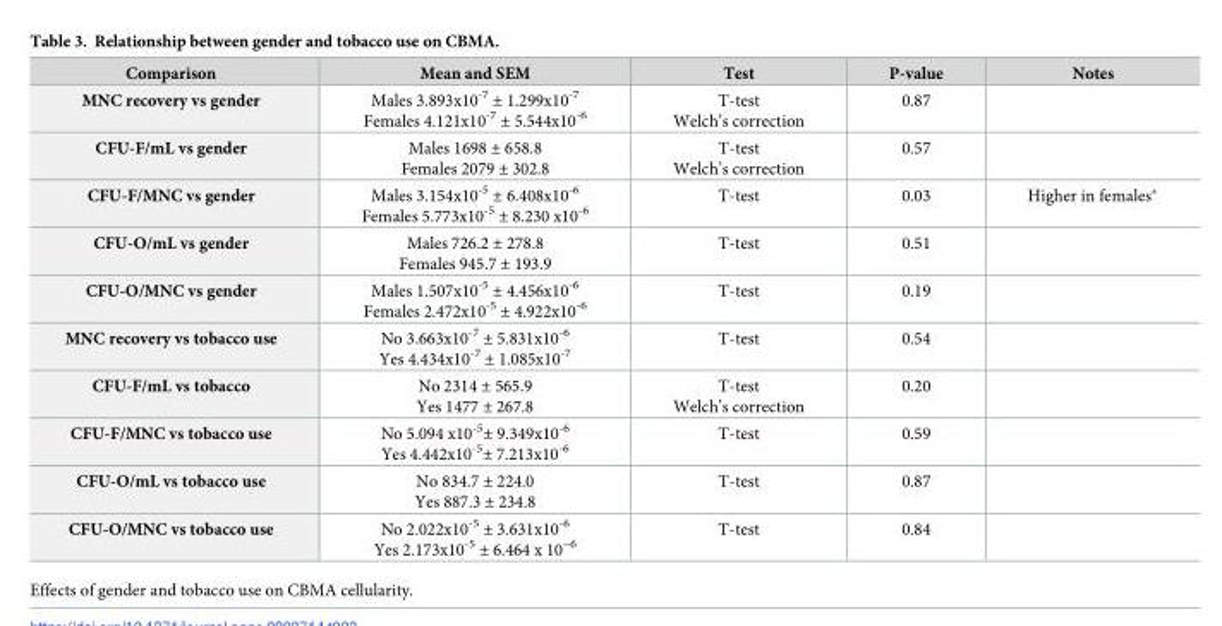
<table><thead><tr><td>Comparison</td><td>Mean and SEM</td><td>Test</td><td>P-value</td><td>Notes</td></tr></thead><tbody><tr><td>MNC recovery vs gender</td><td>Males 3.893x10<sup>-7</sup> ± 1.299x10<sup>-7</sup> Females 4.121x10<sup>-7</sup> ± 5.544x10<sup>-6</sup></td><td>T-test Welch’s correction</td><td>0.87</td><td></td></tr><tr><td>CFU-F/mL vs gender</td><td>Males 1698 ± 658.8 Females 2079 ± 302.8</td><td>T-test Welch’s correction</td><td>0.57</td><td></td></tr><tr><td>CFU-F/MNC vs gender</td><td>Males 3.154x10<sup>-5</sup> ± 6.408x10<sup>-6</sup> Females 5.773x10<sup>-5</sup> ± 8.230 x10<sup>-6</sup></td><td>T-test</td><td>0.03</td><td>Higher in females*</td></tr><tr><td>CFU-O/mL vs gender</td><td>Males 726.2 ± 278.8 Females 945.7 ± 193.9</td><td>T-test</td><td>0.51</td><td></td></tr><tr><td>CFU-O/MNC vs gender</td><td>Males 1.507x10<sup>-5</sup> ± 4.456x10<sup>-6</sup> Females 2.472x10<sup>-5</sup> ± 4.922x10<sup>-6</sup></td><td>T-test</td><td>0.19</td><td></td></tr><tr><td>MNC recovery vs tobacco use</td><td>No 3.663x10<sup>-7</sup> ± 5.831x10<sup>-6</sup> Yes 4.434x10<sup>-7</sup> ± 1.085x10<sup>-7</sup></td><td>T-test</td><td>0.54</td><td></td></tr><tr><td>CFU-F/mL vs tobacco</td><td>No 2314 ± 565.9 Yes 1477 ± 267.8</td><td>T-test Welch’s correction</td><td>0.20</td><td></td></tr><tr><td>CFU-F/MNC vs tobacco use</td><td>No 5.094 x10<sup>-5</sup>± 9.349x10<sup>-6</sup> Yes 4.442x10<sup>-5</sup>± 7.213x10<sup>-6</sup></td><td>T-test</td><td>0.59</td><td></td></tr><tr><td>CFU-O/mL vs tobacco use</td><td>No 834.7 ± 224.0 Yes 887.3 ± 234.8</td><td>T-test</td><td>0.87</td><td></td></tr><tr><td>CFU-O/MNC vs tobacco use</td><td>No 2.022x10<sup>-5</sup> ± 3.631x10<sup>-6</sup> Yes 2.173x10<sup>-5</sup> ± 6.464 x 10<sup>−6</sup></td><td>T-test</td><td>0.84</td><td></td></tr></tbody></table>